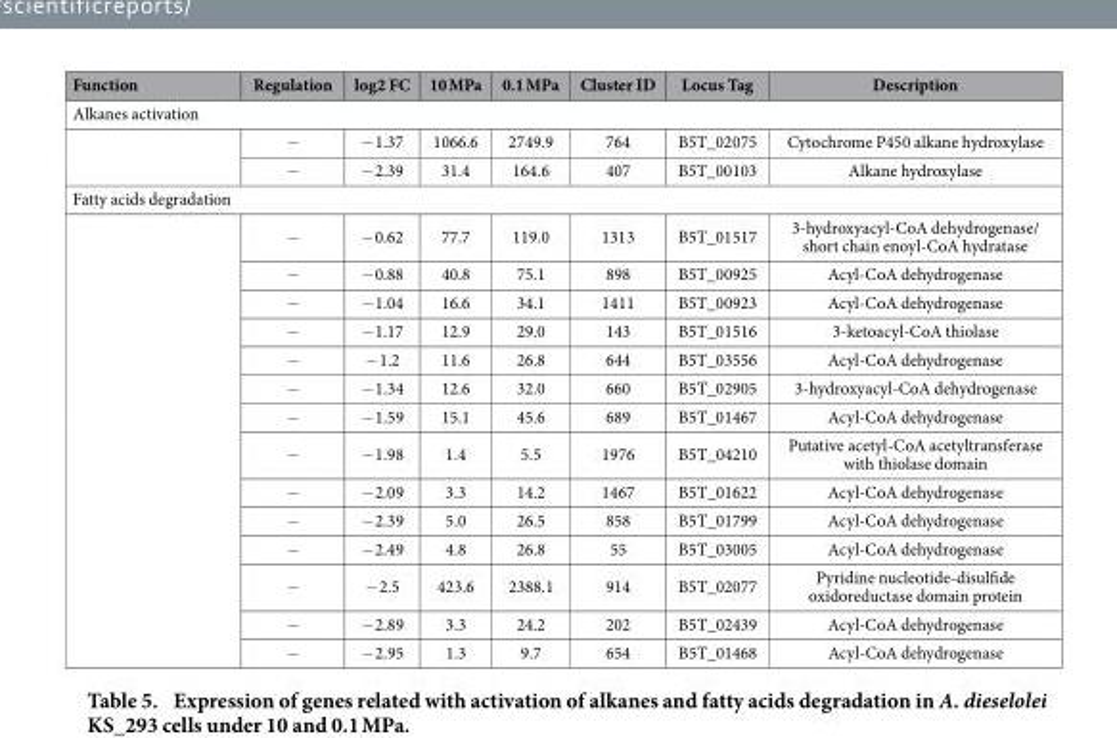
<table><thead><tr><td>Function</td><td>Regulation</td><td>log2 FC</td><td>10 MPa</td><td>0.1 MPa</td><td>Cluster ID</td><td>Locus Tag</td><td>Description</td></tr></thead><tbody><tr><td colspan="8">Alkanes activation</td></tr><tr><td rowspan="2"></td><td>−</td><td>− 1.37</td><td>1066.6</td><td>2749.9</td><td>764</td><td>B5T_02075</td><td>Cytochrome P450 alkane hydroxylase</td></tr><tr><td>−</td><td>− 2.39</td><td>31.4</td><td>164.6</td><td>407</td><td>B5T_00103</td><td>Alkane hydroxylase</td></tr><tr><td colspan="8">Fatty acids degradation</td></tr><tr><td rowspan="14"></td><td>−</td><td>− 0.62</td><td>77.7</td><td>119.0</td><td>1313</td><td>B5T_01517</td><td>3-hydroxyacyl-CoA dehydrogenase/ short chain enoyl-CoA hydratase</td></tr><tr><td>−</td><td>− 0.88</td><td>40.8</td><td>75.1</td><td>898</td><td>B5T_00925</td><td>Acyl-CoA dehydrogenase</td></tr><tr><td>−</td><td>− 1.04</td><td>16.6</td><td>34.1</td><td>1411</td><td>B5T_00923</td><td>Acyl-CoA dehydrogenase</td></tr><tr><td>−</td><td>− 1.17</td><td>12.9</td><td>29.0</td><td>143</td><td>B5T_01516</td><td>3-ketoacyl-CoA thiolase</td></tr><tr><td>−</td><td>− 1.2</td><td>11.6</td><td>26.8</td><td>644</td><td>B5T_03556</td><td>Acyl-CoA dehydrogenase</td></tr><tr><td>−</td><td>− 1.34</td><td>12.6</td><td>32.0</td><td>660</td><td>B5T_02905</td><td>3-hydroxyacyl-CoA dehydrogenase</td></tr><tr><td>−</td><td>− 1.59</td><td>15.1</td><td>45.6</td><td>689</td><td>B5T_01467</td><td>Acyl-CoA dehydrogenase</td></tr><tr><td>−</td><td>− 1.98</td><td>1.4</td><td>5.5</td><td>1976</td><td>B5T_04210</td><td>Putative acetyl-CoA acetyltransferase with thiolase domain</td></tr><tr><td>−</td><td>− 2.09</td><td>3.3</td><td>14.2</td><td>1467</td><td>B5T_01622</td><td>Acyl-CoA dehydrogenase</td></tr><tr><td>−</td><td>− 2.39</td><td>5.0</td><td>26.5</td><td>858</td><td>B5T_01799</td><td>Acyl-CoA dehydrogenase</td></tr><tr><td>−</td><td>− 2.49</td><td>4.8</td><td>26.8</td><td>55</td><td>B5T_03005</td><td>Acyl-CoA dehydrogenase</td></tr><tr><td>−</td><td>− 2.5</td><td>423.6</td><td>2388.1</td><td>914</td><td>B5T_02077</td><td>Pyridine nucleotide-disulfide oxidoreductase domain protein</td></tr><tr><td>−</td><td>− 2.89</td><td>3.3</td><td>24.2</td><td>202</td><td>B5T_02439</td><td>Acyl-CoA dehydrogenase</td></tr><tr><td>−</td><td>− 2.95</td><td>1.3</td><td>9.7</td><td>654</td><td>B5T_01468</td><td>Acyl-CoA dehydrogenase</td></tr></tbody></table>